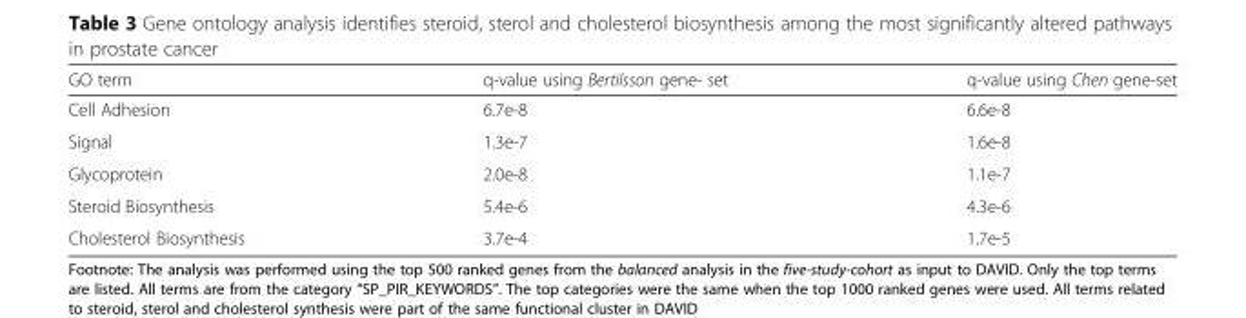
<table><thead><tr><td>GO term</td><td>q-value using Bertilsson gene- set</td><td>q-value using Chen gene-set</td></tr></thead><tbody><tr><td>Cell Adhesion</td><td>6.7e-8</td><td>6.6e-8</td></tr><tr><td>Signal</td><td>1.3e-7</td><td>1.6e-8</td></tr><tr><td>Glycoprotein</td><td>2.0e-8</td><td>1.1e-7</td></tr><tr><td>Steroid Biosynthesis</td><td>5.4e-6</td><td>4.3e-6</td></tr><tr><td>Cholesterol Biosynthesis</td><td>3.7e-4</td><td>1.7e-5</td></tr></tbody></table>